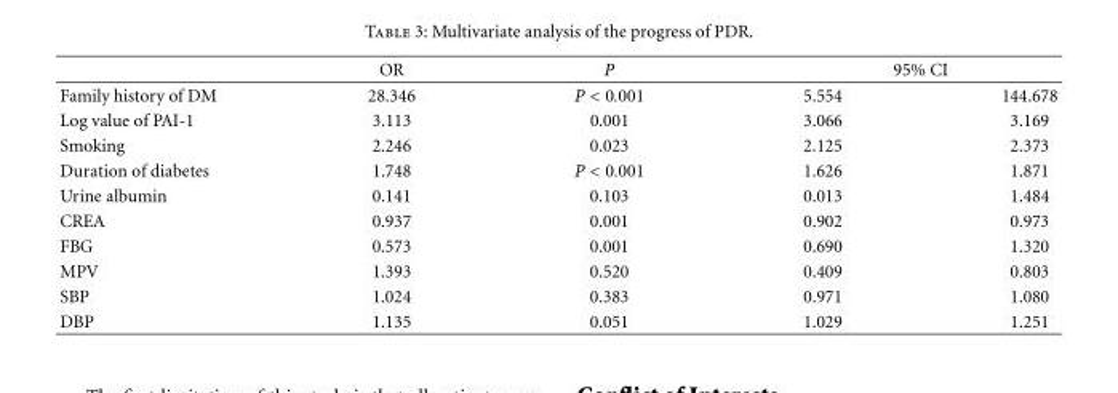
<table><thead><tr><td rowspan="2">Family history of DM</td><td rowspan="2">OR 28.346</td><td rowspan="2">P P &lt; 0.001</td><td colspan="2">95% CI</td></tr><tr><td>5.554</td><td>144.678</td></tr></thead><tbody><tr><td>Log value of PAI-1</td><td>3.113</td><td>0.001</td><td>3.066</td><td>3.169</td></tr><tr><td>Smoking</td><td>2.246</td><td>0.023</td><td>2.125</td><td>2.373</td></tr><tr><td>Duration of diabetes</td><td>1.748</td><td>P &lt; 0.001</td><td>1.626</td><td>1.871</td></tr><tr><td>Urine albumin</td><td>0.141</td><td>0.103</td><td>0.013</td><td>1.484</td></tr><tr><td>CREA</td><td>0.937</td><td>0.001</td><td>0.902</td><td>0.973</td></tr><tr><td>FBG</td><td>0.573</td><td>0.001</td><td>0.690</td><td>1.320</td></tr><tr><td>MPV</td><td>1.393</td><td>0.520</td><td>0.409</td><td>0.803</td></tr><tr><td>SBP</td><td>1.024</td><td>0.383</td><td>0.971</td><td>1.080</td></tr><tr><td>DBP</td><td>1.135</td><td>0.051</td><td>1.029</td><td>1.251</td></tr></tbody></table>